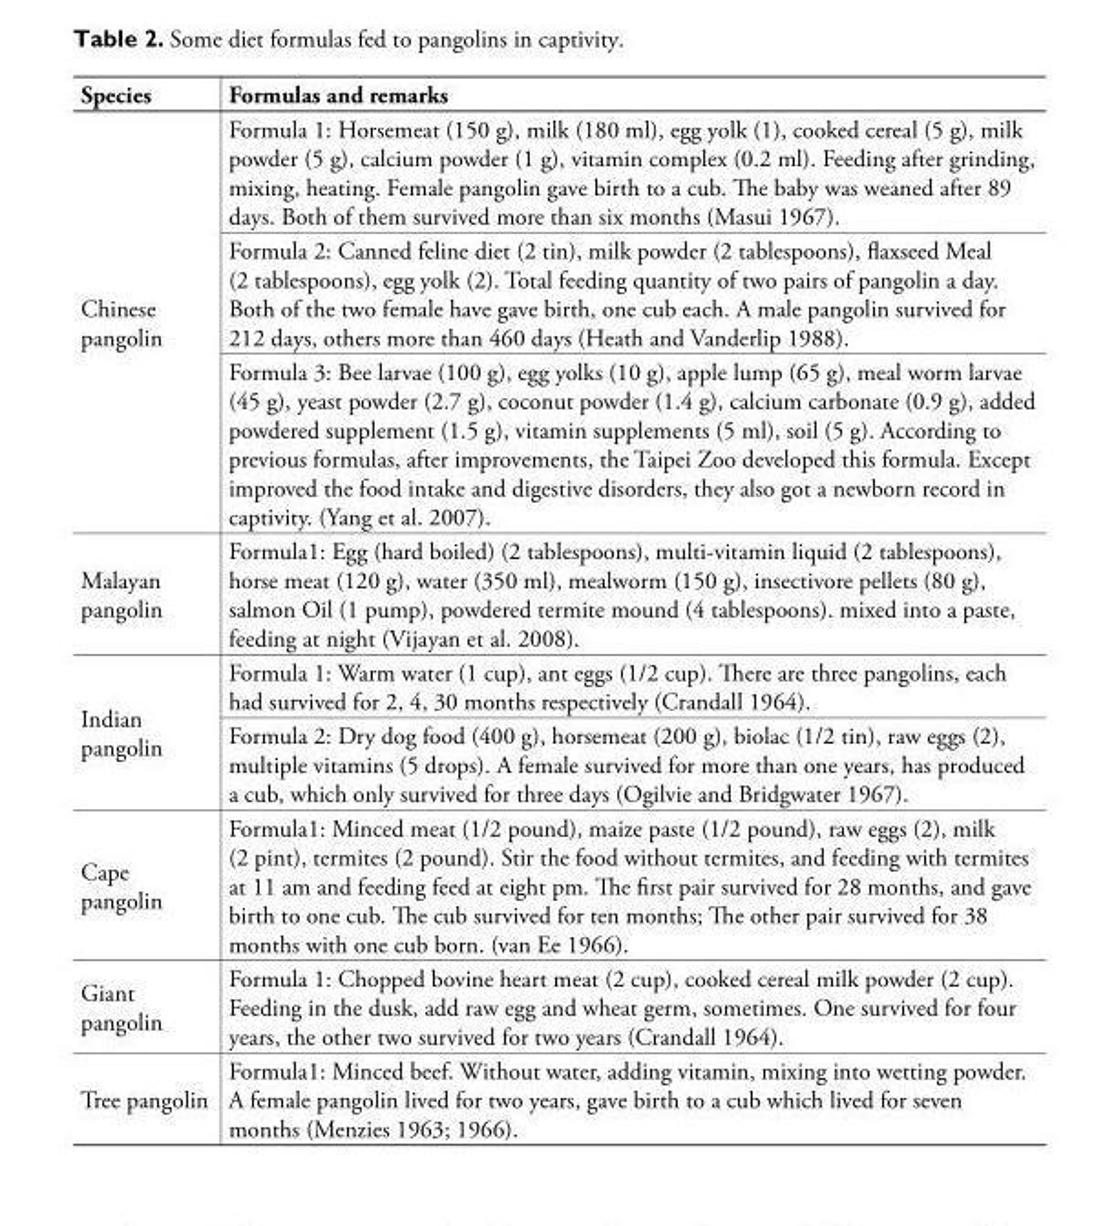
<table><thead><tr><td>Species</td><td>Formulas and remarks</td></tr></thead><tbody><tr><td rowspan="3">Chinese pangolin</td><td>Formula 1: Horsemeat (150 g), milk (180 ml), egg yolk (1), cooked cereal (5 g), milk powder (5 g), calcium powder (1 g), vitamin complex (0.2 ml). Feeding after grinding, mixing, heating. Female pangolin gave birth to a cub. The baby was weaned after 89 days. Both of them survived more than six months (Masui 1967).</td></tr><tr><td>Formula 2: Canned feline diet (2 tin), milk powder (2 tablespoons), flaxseed Meal (2 tablespoons), egg yolk (2). Total feeding quantity of two pairs of pangolin a day. Both of the two female have gave birth, one cub each. A male pangolin survived for 212 days, others more than 460 days (Heath and Vanderlip 1988).</td></tr><tr><td>Formula 3: Bee larvae (100 g), egg yolks (10 g), apple lump (65 g), meal worm larvae (45 g), yeast powder (2.7 g), coconut powder (1.4 g), calcium carbonate (0.9 g), added powdered supplement (1.5 g), vitamin supplements (5 ml), soil (5 g). According to previous formulas, after improvements, the Taipei Zoo developed this formula. Except improved the food intake and digestive disorders, they also got a newborn record in captivity. (Yang et al. 2007).</td></tr><tr><td>Malayan pangolin</td><td>Formula1: Egg (hard boiled) (2 tablespoons), multi-vitamin liquid (2 tablespoons), horse meat (120 g), water (350 ml), mealworm (150 g), insectivore pellets (80 g), salmon Oil (1 pump), powdered termite mound (4 tablespoons). mixed into a paste, feeding at night (Vijayan et al. 2008).</td></tr><tr><td rowspan="2">Indian pangolin</td><td>Formula 1: Warm water (1 cup), ant eggs (1/2 cup). There are three pangolins, each had survived for 2, 4, 30 months respectively (Crandall 1964).</td></tr><tr><td>Formula 2: Dry dog food (400 g), horsemeat (200 g), biolac (1/2 tin), raw eggs (2), multiple vitamins (5 drops). A female survived for more than one years, has produced a cub, which only survived for three days (Ogilvie and Bridgwater 1967).</td></tr><tr><td>Cape pangolin</td><td>Formula1: Minced meat (1/2 pound), maize paste (1/2 pound), raw eggs (2), milk (2 pint), termites (2 pound). Stir the food without termites, and feeding with termites at 11 am and feeding feed at eight pm. The first pair survived for 28 months, and gave birth to one cub. The cub survived for ten months; The other pair survived for 38 months with one cub born. (van Ee 1966).</td></tr><tr><td>Giant pangolin</td><td>Formula 1: Chopped bovine heart meat (2 cup), cooked cereal milk powder (2 cup). Feeding in the dusk, add raw egg and wheat germ, sometimes. One survived for four years, the other two survived for two years (Crandall 1964).</td></tr><tr><td>Tree pangolin</td><td>Formula1: Minced beef. Without water, adding vitamin, mixing into wetting powder. A female pangolin lived for two years, gave birth to a cub which lived for seven months (Menzies 1963; 1966).</td></tr></tbody></table>